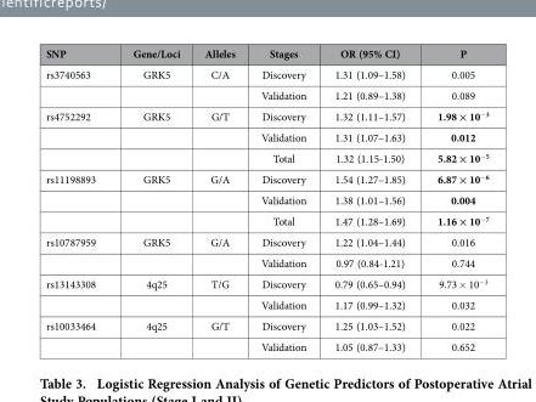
<table><thead><tr><td>SNP</td><td>Gene/Loci</td><td>Alleles</td><td>Stages</td><td>OR (95% CI)</td><td>P</td></tr></thead><tbody><tr><td rowspan="2">rs3740563</td><td>GRK5</td><td>C/A</td><td>Discovery</td><td>1.31 (1.09–1.58)</td><td>0.005</td></tr><tr><td></td><td></td><td>Validation</td><td>1.21 (0.89–1.38)</td><td>0.089</td></tr><tr><td rowspan="3">rs4752292</td><td>GRK5</td><td>G/T</td><td>Discovery</td><td>1.32 (1.11–1.57)</td><td>1.98 × 10<sup>−3</sup></td></tr><tr><td></td><td></td><td>Validation</td><td>1.31 (1.07–1.63)</td><td>0.012</td></tr><tr><td></td><td></td><td>Total</td><td>1.32 (1.15-1.50)</td><td>5.82 × 10<sup>−5</sup></td></tr><tr><td rowspan="3">rs11198893</td><td>GRK5</td><td>G/A</td><td>Discovery</td><td>1.54 (1.27–1.85)</td><td>6.87 × 10<sup>−6</sup></td></tr><tr><td></td><td></td><td>Validation</td><td>1.38 (1.01–1.56)</td><td>0.004</td></tr><tr><td></td><td></td><td>Total</td><td>1.47 (1.28–1.69)</td><td>1.16 × 10<sup>−7</sup></td></tr><tr><td rowspan="2">rs10787959</td><td>GRK5</td><td>G/A</td><td>Discovery</td><td>1.22 (1.04–1.44)</td><td>0.016</td></tr><tr><td></td><td></td><td>Validation</td><td>0.97 (0.84-1.21)</td><td>0.744</td></tr><tr><td rowspan="2">rs13143308</td><td>4q25</td><td>T/G</td><td>Discovery</td><td>0.79 (0.65–0.94)</td><td>9.73 × 10<sup>−3</sup></td></tr><tr><td></td><td></td><td>Validation</td><td>1.17 (0.99–1.32)</td><td>0.032</td></tr><tr><td rowspan="2">rs10033464</td><td>4q25</td><td>G/T</td><td>Discovery</td><td>1.25 (1.03–1.52)</td><td>0.022</td></tr><tr><td></td><td></td><td>Validation</td><td>1.05 (0.87–1.33)</td><td>0.652</td></tr></tbody></table>